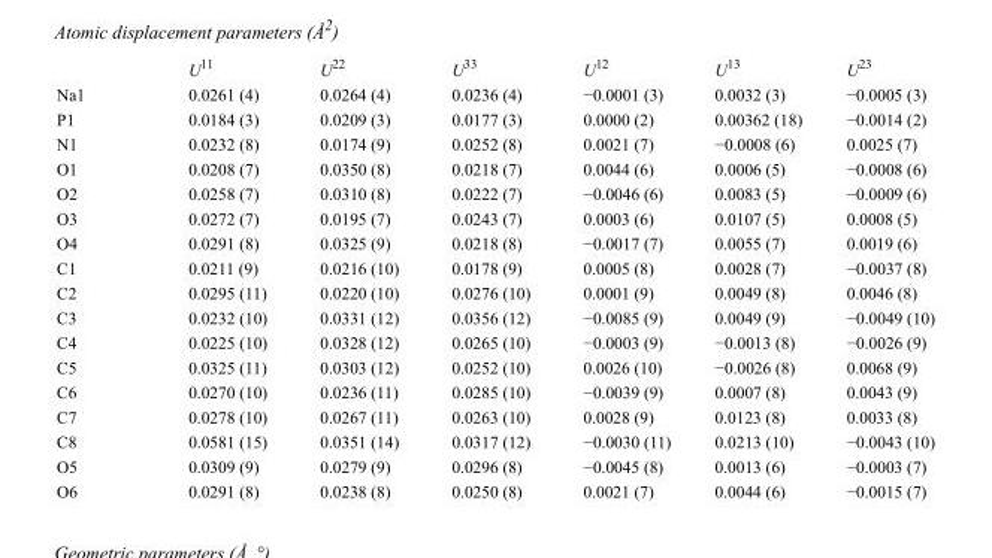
<table><thead><tr><td></td><td>U<sup>11</sup></td><td>U<sup>22</sup></td><td>U<sup>33</sup></td><td>U<sup>12</sup></td><td>U<sup>13</sup></td><td>U<sup>23</sup></td></tr></thead><tbody><tr><td>Na1</td><td>0.0261 (4)</td><td>0.0264 (4)</td><td>0.0236 (4)</td><td>−0.0001 (3)</td><td>0.0032 (3)</td><td>−0.0005 (3)</td></tr><tr><td>P1</td><td>0.0184 (3)</td><td>0.0209 (3)</td><td>0.0177 (3)</td><td>0.0000 (2)</td><td>0.00362 (18)</td><td>−0.0014 (2)</td></tr><tr><td>N1</td><td>0.0232 (8)</td><td>0.0174 (9)</td><td>0.0252 (8)</td><td>0.0021 (7)</td><td>−0.0008 (6)</td><td>0.0025 (7)</td></tr><tr><td>O1</td><td>0.0208 (7)</td><td>0.0350 (8)</td><td>0.0218 (7)</td><td>0.0044 (6)</td><td>0.0006 (5)</td><td>−0.0008 (6)</td></tr><tr><td>O2</td><td>0.0258 (7)</td><td>0.0310 (8)</td><td>0.0222 (7)</td><td>−0.0046 (6)</td><td>0.0083 (5)</td><td>−0.0009 (6)</td></tr><tr><td>O3</td><td>0.0272 (7)</td><td>0.0195 (7)</td><td>0.0243 (7)</td><td>0.0003 (6)</td><td>0.0107 (5)</td><td>0.0008 (5)</td></tr><tr><td>O4</td><td>0.0291 (8)</td><td>0.0325 (9)</td><td>0.0218 (8)</td><td>−0.0017 (7)</td><td>0.0055 (7)</td><td>0.0019 (6)</td></tr><tr><td>C1</td><td>0.0211 (9)</td><td>0.0216 (10)</td><td>0.0178 (9)</td><td>0.0005 (8)</td><td>0.0028 (7)</td><td>−0.0037 (8)</td></tr><tr><td>C2</td><td>0.0295 (11)</td><td>0.0220 (10)</td><td>0.0276 (10)</td><td>0.0001 (9)</td><td>0.0049 (8)</td><td>0.0046 (8)</td></tr><tr><td>C3</td><td>0.0232 (10)</td><td>0.0331 (12)</td><td>0.0356 (12)</td><td>−0.0085 (9)</td><td>0.0049 (9)</td><td>−0.0049 (10)</td></tr><tr><td>C4</td><td>0.0225 (10)</td><td>0.0328 (12)</td><td>0.0265 (10)</td><td>−0.0003 (9)</td><td>−0.0013 (8)</td><td>−0.0026 (9)</td></tr><tr><td>C5</td><td>0.0325 (11)</td><td>0.0303 (12)</td><td>0.0252 (10)</td><td>0.0026 (10)</td><td>−0.0026 (8)</td><td>0.0068 (9)</td></tr><tr><td>C6</td><td>0.0270 (10)</td><td>0.0236 (11)</td><td>0.0285 (10)</td><td>−0.0039 (9)</td><td>0.0007 (8)</td><td>0.0043 (9)</td></tr><tr><td>C7</td><td>0.0278 (10)</td><td>0.0267 (11)</td><td>0.0263 (10)</td><td>0.0028 (9)</td><td>0.0123 (8)</td><td>0.0033 (8)</td></tr><tr><td>C8</td><td>0.0581 (15)</td><td>0.0351 (14)</td><td>0.0317 (12)</td><td>−0.0030 (11)</td><td>0.0213 (10)</td><td>−0.0043 (10)</td></tr><tr><td>O5</td><td>0.0309 (9)</td><td>0.0279 (9)</td><td>0.0296 (8)</td><td>−0.0045 (8)</td><td>0.0013 (6)</td><td>−0.0003 (7)</td></tr><tr><td>O6</td><td>0.0291 (8)</td><td>0.0238 (8)</td><td>0.0250 (8)</td><td>0.0021 (7)</td><td>0.0044 (6)</td><td>−0.0015 (7)</td></tr></tbody></table>